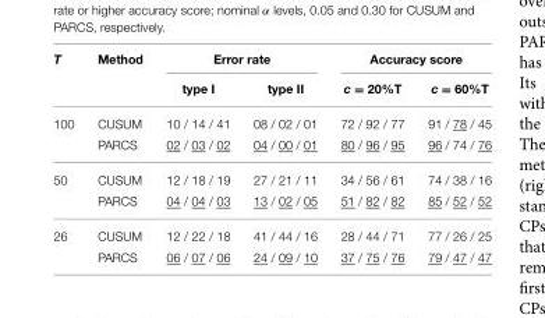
<table><thead><tr><td rowspan="2">T</td><td rowspan="2">Method</td><td colspan="2">Error rate</td><td colspan="2">Accuracy score</td></tr><tr><td>type I</td><td>type II</td><td>c = 20%T</td><td>c = 60%T</td></tr></thead><tbody><tr><td rowspan="2">100</td><td>CUSUM</td><td>10 / 14 / 41</td><td>08 / 02 / 01</td><td>72 / 92 / 77</td><td>91 / 78 / 45</td></tr><tr><td>PARCS</td><td>02 / 03 / 02</td><td>04 / 00 / 01</td><td>80 / 96 / 95</td><td>96 / 74 / 76</td></tr><tr><td rowspan="2">50</td><td>CUSUM</td><td>12 / 18 / 19</td><td>27 / 21 / 11</td><td>34 / 56 / 61</td><td>74 / 38 / 16</td></tr><tr><td>PARCS</td><td>04 / 04 / 03</td><td>13 / 02 / 05</td><td>51 / 82 / 82</td><td>85 / 52 / 52</td></tr><tr><td rowspan="2">26</td><td>CUSUM</td><td>12 / 22 / 18</td><td>41 / 44 / 16</td><td>28 / 44 / 71</td><td>77 / 26 / 25</td></tr><tr><td>PARCS</td><td>06 / 07 / 06</td><td>24 / 09 / 10</td><td>37 / 75 / 76</td><td>79 / 47 / 47</td></tr></tbody></table>